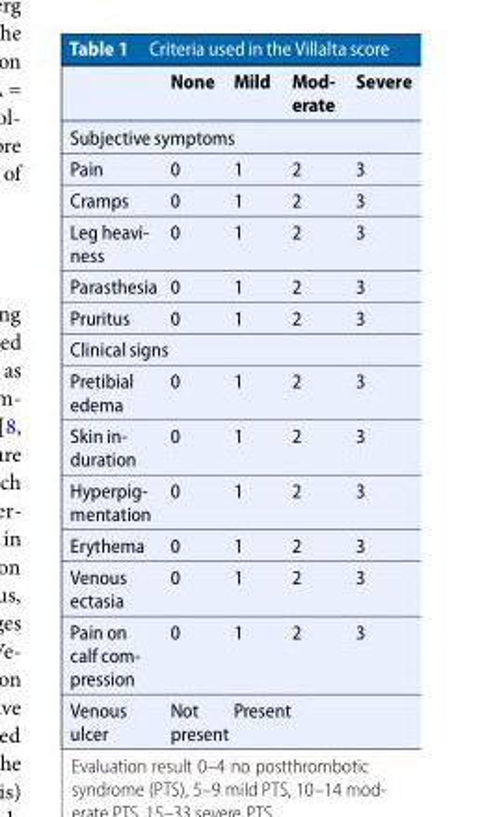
<table><thead><tr><td></td><td>None</td><td>Mild</td><td>Mod- erate</td><td>Severe</td></tr></thead><tbody><tr><td colspan="5">Subjective symptoms</td></tr><tr><td>Pain</td><td>0</td><td>1</td><td>2</td><td>3</td></tr><tr><td>Cramps</td><td>0</td><td>1</td><td>2</td><td>3</td></tr><tr><td>Leg heavi- ness</td><td>0</td><td>1</td><td>2</td><td>3</td></tr><tr><td>Parasthesia</td><td>0</td><td>1</td><td>2</td><td>3</td></tr><tr><td>Pruritus</td><td>0</td><td>1</td><td>2</td><td>3</td></tr><tr><td colspan="5">Clinical signs</td></tr><tr><td>Pretibial edema</td><td>0</td><td>1</td><td>2</td><td>3</td></tr><tr><td>Skin in- duration</td><td>0</td><td>1</td><td>2</td><td>3</td></tr><tr><td>Hyperpig- mentation</td><td>0</td><td>1</td><td>2</td><td>3</td></tr><tr><td>Erythema</td><td>0</td><td>1</td><td>2</td><td>3</td></tr><tr><td>Venous ectasia</td><td>0</td><td>1</td><td>2</td><td>3</td></tr><tr><td>Pain on calf com- pression</td><td>0</td><td>1</td><td>2</td><td>3</td></tr><tr><td>Venous ulcer</td><td>Not present</td><td colspan="3">Present</td></tr></tbody></table>